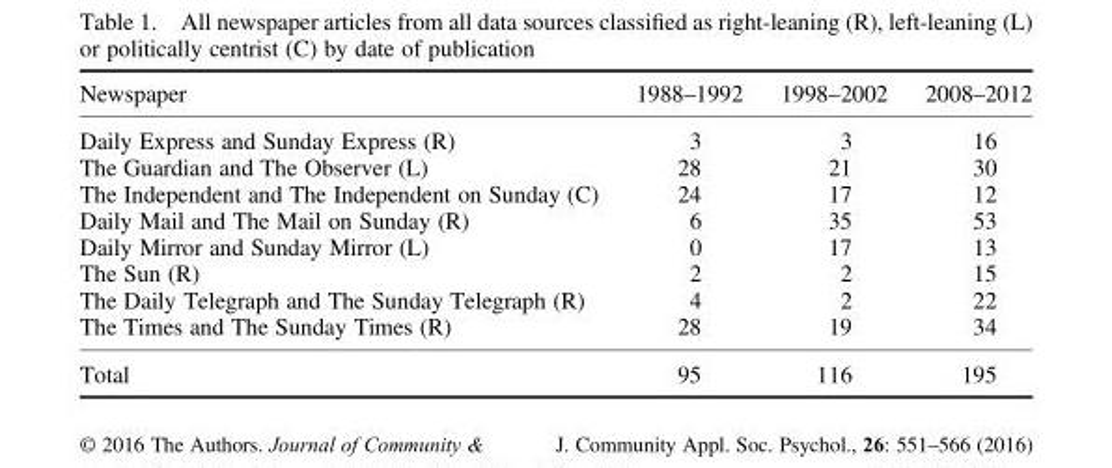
<table><thead><tr><td>Newspaper</td><td>1988–1992</td><td>1998–2002</td><td>2008–2012</td></tr></thead><tbody><tr><td>Daily Express and Sunday Express (R)</td><td>3</td><td>3</td><td>16</td></tr><tr><td>The Guardian and The Observer (L)</td><td>28</td><td>21</td><td>30</td></tr><tr><td>The Independent and The Independent on Sunday (C)</td><td>24</td><td>17</td><td>12</td></tr><tr><td>Daily Mail and The Mail on Sunday (R)</td><td>6</td><td>35</td><td>53</td></tr><tr><td>Daily Mirror and Sunday Mirror (L)</td><td>0</td><td>17</td><td>13</td></tr><tr><td>The Sun (R)</td><td>2</td><td>2</td><td>15</td></tr><tr><td>The Daily Telegraph and The Sunday Telegraph (R)</td><td>4</td><td>2</td><td>22</td></tr><tr><td>The Times and The Sunday Times (R)</td><td>28</td><td>19</td><td>34</td></tr><tr><td>Total</td><td>95</td><td>116</td><td>195</td></tr></tbody></table>